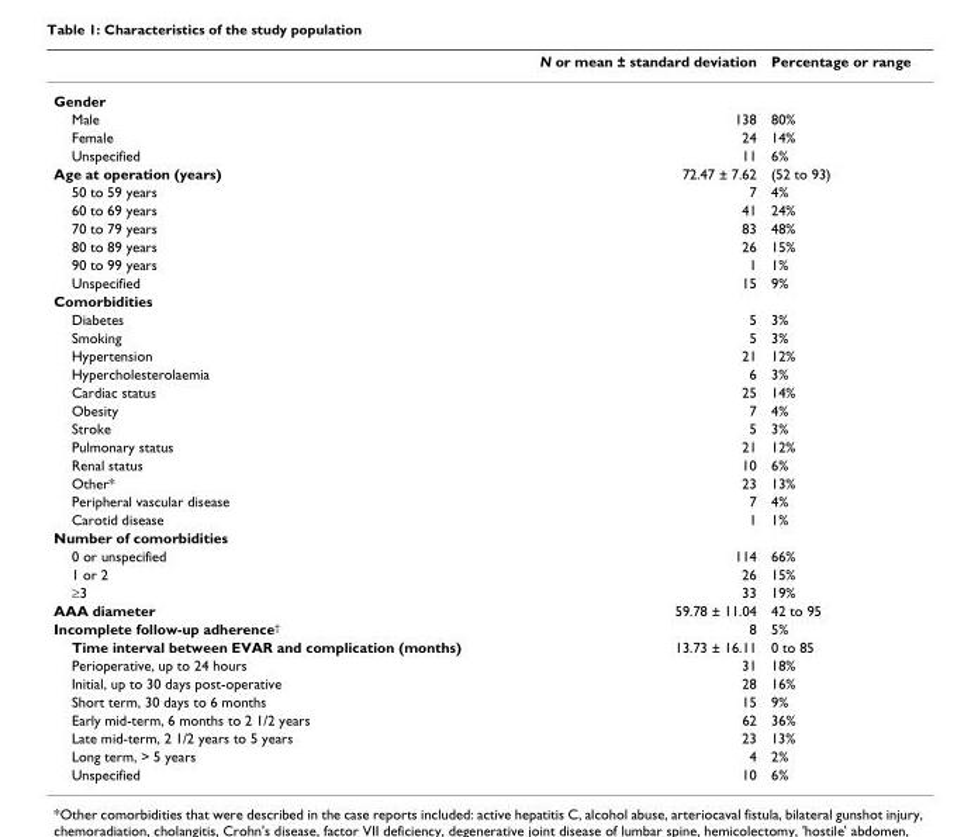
<table><thead><tr><td></td><td>N or mean ± standard deviation</td><td>Percentage or range</td></tr></thead><tbody><tr><td colspan="3">Gender</td></tr><tr><td>Male</td><td>138</td><td>80%</td></tr><tr><td>Female</td><td>24</td><td>14%</td></tr><tr><td>Unspecified</td><td>11</td><td>6%</td></tr><tr><td>Age at operation (years)</td><td>72.47 ± 7.62</td><td>(52 to 93)</td></tr><tr><td>50 to 59 years</td><td>7</td><td>4%</td></tr><tr><td>60 to 69 years</td><td>41</td><td>24%</td></tr><tr><td>70 to 79 years</td><td>83</td><td>48%</td></tr><tr><td>80 to 89 years</td><td>26</td><td>15%</td></tr><tr><td>90 to 99 years</td><td>1</td><td>1%</td></tr><tr><td>Unspecified</td><td>15</td><td>9%</td></tr><tr><td colspan="3">Comorbidities</td></tr><tr><td>Diabetes</td><td>5</td><td>3%</td></tr><tr><td>Smoking</td><td>5</td><td>3%</td></tr><tr><td>Hypertension</td><td>21</td><td>12%</td></tr><tr><td>Hypercholesterolaemia</td><td>6</td><td>3%</td></tr><tr><td>Cardiac status</td><td>25</td><td>14%</td></tr><tr><td>Obesity</td><td>7</td><td>4%</td></tr><tr><td>Stroke</td><td>5</td><td>3%</td></tr><tr><td>Pulmonary status</td><td>21</td><td>12%</td></tr><tr><td>Renal status</td><td>10</td><td>6%</td></tr><tr><td>Other*</td><td>23</td><td>13%</td></tr><tr><td>Peripheral vascular disease</td><td>7</td><td>4%</td></tr><tr><td>Carotid disease</td><td>1</td><td>1%</td></tr><tr><td colspan="3">Number of comorbidities</td></tr><tr><td>0 or unspecified</td><td>114</td><td>66%</td></tr><tr><td>1 or 2</td><td>26</td><td>15%</td></tr><tr><td>≥3</td><td>33</td><td>19%</td></tr><tr><td>AAA diameter</td><td>59.78 ± 11.04</td><td>42 to 95</td></tr><tr><td>Incomplete follow-up adherence<sup>†</sup></td><td>8</td><td>5%</td></tr><tr><td>Time interval between EVAR and complication (months)</td><td>13.73 ± 16.11</td><td>0 to 85</td></tr><tr><td>Perioperative, up to 24 hours</td><td>31</td><td>18%</td></tr><tr><td>Initial, up to 30 days post-operative</td><td>28</td><td>16%</td></tr><tr><td>Short term, 30 days to 6 months</td><td>15</td><td>9%</td></tr><tr><td>Early mid-term, 6 months to 2 1/2 years</td><td>62</td><td>36%</td></tr><tr><td>Late mid-term, 2 1/2 years to 5 years</td><td>23</td><td>13%</td></tr><tr><td>Long term, &gt; 5 years</td><td>4</td><td>2%</td></tr><tr><td>Unspecified</td><td>10</td><td>6%</td></tr></tbody></table>